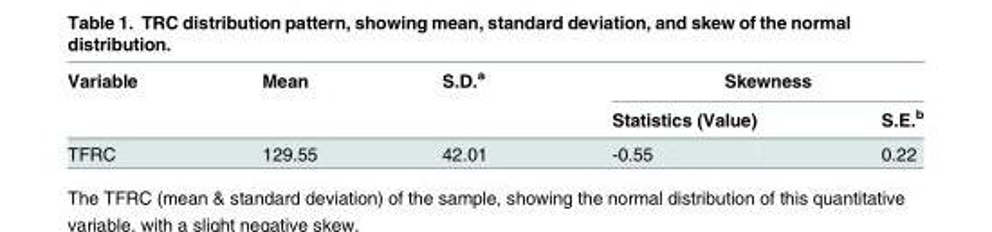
<table><thead><tr><td rowspan="2">Variable</td><td rowspan="2">Mean</td><td rowspan="2">S.D.<sup>a</sup></td><td colspan="2">Skewness</td></tr><tr><td>Statistics (Value)</td><td>S.E.<sup>b</sup></td></tr></thead><tbody><tr><td>TFRC</td><td>129.55</td><td>42.01</td><td>-0.55</td><td>0.22</td></tr></tbody></table>